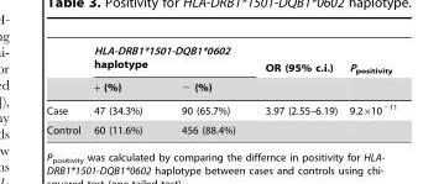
<table><thead><tr><td rowspan="2"></td><td colspan="2">HLA-DRB1*1501-DQB1*0602 haplotype</td><td rowspan="2">OR (95% c.i.)</td><td rowspan="2">P<sub>positivity</sub></td></tr><tr><td>+ (%)</td><td>− (%)</td></tr></thead><tbody><tr><td>Case</td><td>47 (34.3%)</td><td>90 (65.7%)</td><td>3.97 (2.55–6.19)</td><td>9.2×10<sup>−11</sup></td></tr><tr><td>Control</td><td>60 (11.6%)</td><td>456 (88.4%)</td><td></td><td></td></tr></tbody></table>